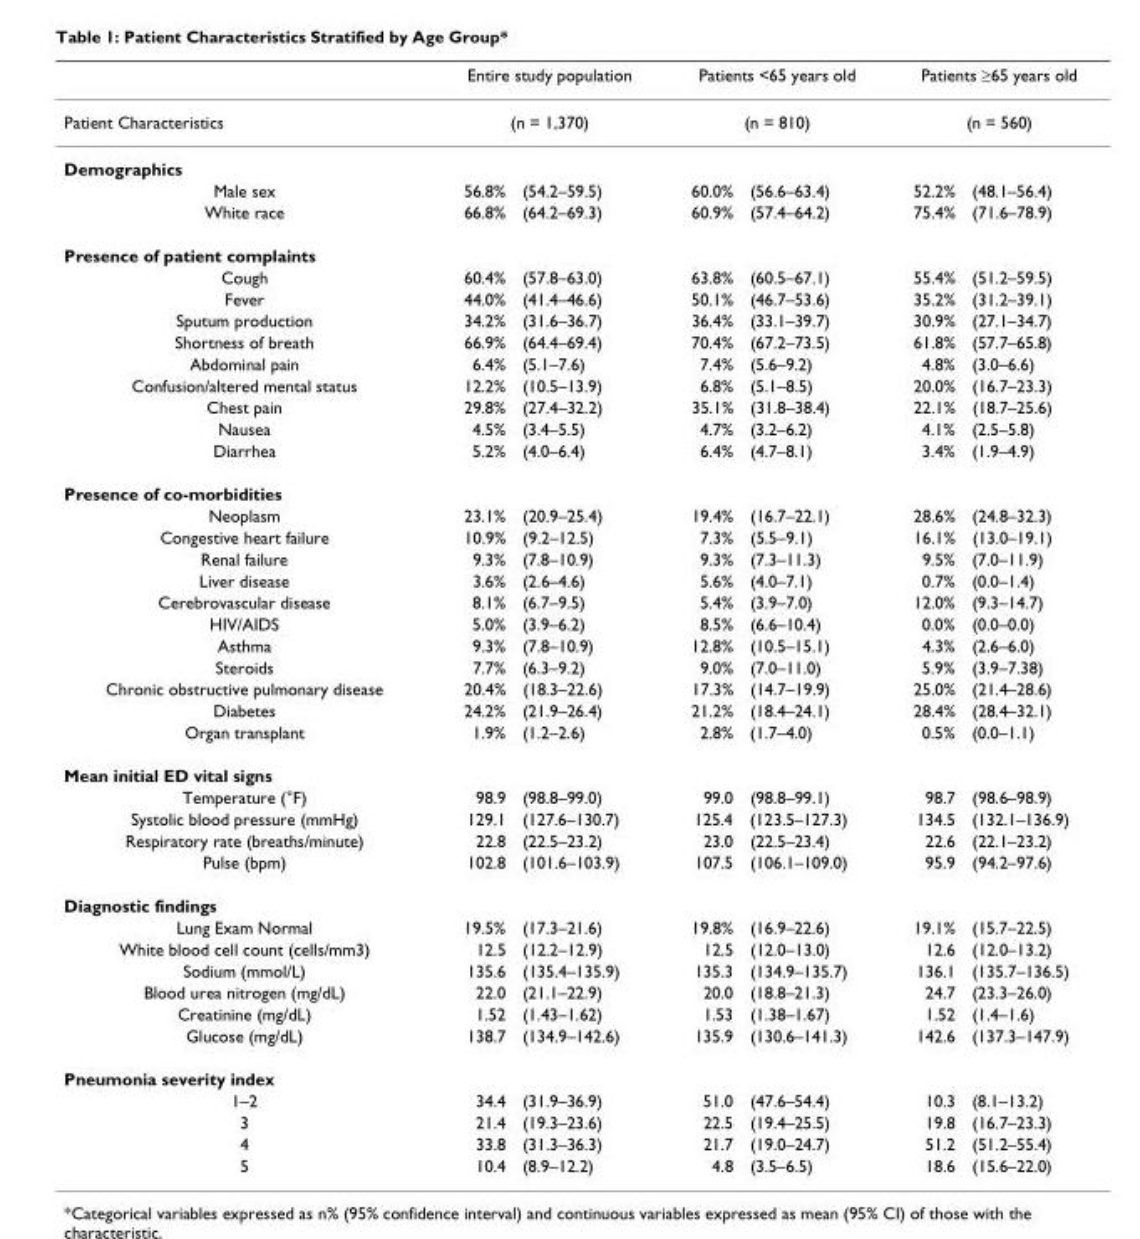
<table><thead><tr><td rowspan="3">Patient Characteristics Demographics</td><td rowspan="2" colspan="2">Entire study population (n = 1,370)</td><td rowspan="2" colspan="2">Patients &lt;65 years old (n = 810)</td><td rowspan="2" colspan="2">Patients ≥65 years old (n = 560)</td></tr><tr></tr><tr><td></td><td></td><td></td><td></td><td></td><td></td></tr></thead><tbody><tr><td>Male sex</td><td>56.8%</td><td>(54.2–59.5)</td><td>60.0%</td><td>(56.6–63.4)</td><td>52.2%</td><td>(48.1–56.4)</td></tr><tr><td>White race</td><td>66.8%</td><td>(64.2–69.3)</td><td>60.9%</td><td>(57.4–64.2)</td><td>75.4%</td><td>(71.6–78.9)</td></tr><tr><td colspan="7">Presence of patient complaints</td></tr><tr><td>Cough</td><td>60.4%</td><td>(57.8–63.0)</td><td>63.8%</td><td>(60.5–67.1)</td><td>55.4%</td><td>(51.2–59.5)</td></tr><tr><td>Fever</td><td>44.0%</td><td>(41.4–46.6)</td><td>50.1%</td><td>(46.7–53.6)</td><td>35.2%</td><td>(31.2–39.1)</td></tr><tr><td>Sputum production</td><td>34.2%</td><td>(31.6–36.7)</td><td>36.4%</td><td>(33.1–39.7)</td><td>30.9%</td><td>(27.1–34.7)</td></tr><tr><td>Shortness of breath</td><td>66.9%</td><td>(64.4–69.4)</td><td>70.4%</td><td>(67.2–73.5)</td><td>61.8%</td><td>(57.7–65.8)</td></tr><tr><td>Abdominal pain</td><td>6.4%</td><td>(5.1–7.6)</td><td>7.4%</td><td>(5.6–9.2)</td><td>4.8%</td><td>(3.0–6.6)</td></tr><tr><td>Confusion/altered mental status</td><td>12.2%</td><td>(10.5–13.9)</td><td>6.8%</td><td>(5.1–8.5)</td><td>20.0%</td><td>(16.7–23.3)</td></tr><tr><td>Chest pain</td><td>29.8%</td><td>(27.4–32.2)</td><td>35.1%</td><td>(31.8–38.4)</td><td>22.1%</td><td>(18.7–25.6)</td></tr><tr><td>Nausea</td><td>4.5%</td><td>(3.4–5.5)</td><td>4.7%</td><td>(3.2–6.2)</td><td>4.1%</td><td>(2.5–5.8)</td></tr><tr><td>Diarrhea</td><td>5.2%</td><td>(4.0–6.4)</td><td>6.4%</td><td>(4.7–8.1)</td><td>3.4%</td><td>(1.9–4.9)</td></tr><tr><td colspan="7">Presence of co-morbidities</td></tr><tr><td>Neoplasm</td><td>23.1%</td><td>(20.9–25.4)</td><td>19.4%</td><td>(16.7–22.1)</td><td>28.6%</td><td>(24.8–32.3)</td></tr><tr><td>Congestive heart failure</td><td>10.9%</td><td>(9.2–12.5)</td><td>7.3%</td><td>(5.5–9.1)</td><td>16.1%</td><td>(13.0–19.1)</td></tr><tr><td>Renal failure</td><td>9.3%</td><td>(7.8–10.9)</td><td>9.3%</td><td>(7.3–11.3)</td><td>9.5%</td><td>(7.0–11.9)</td></tr><tr><td>Liver disease</td><td>3.6%</td><td>(2.6–4.6)</td><td>5.6%</td><td>(4.0–7.1)</td><td>0.7%</td><td>(0.0–1.4)</td></tr><tr><td>Cerebrovascular disease</td><td>8.1%</td><td>(6.7–9.5)</td><td>5.4%</td><td>(3.9–7.0)</td><td>12.0%</td><td>(9.3–14.7)</td></tr><tr><td>HIV/AIDS</td><td>5.0%</td><td>(3.9–6.2)</td><td>8.5%</td><td>(6.6–10.4)</td><td>0.0%</td><td>(0.0–0.0)</td></tr><tr><td>Asthma</td><td>9.3%</td><td>(7.8–10.9)</td><td>12.8%</td><td>(10.5–15.1)</td><td>4.3%</td><td>(2.6–6.0)</td></tr><tr><td>Steroids</td><td>7.7%</td><td>(6.3–9.2)</td><td>9.0%</td><td>(7.0–11.0)</td><td>5.9%</td><td>(3.9–7.38)</td></tr><tr><td>Chronic obstructive pulmonary disease</td><td>20.4%</td><td>(18.3–22.6)</td><td>17.3%</td><td>(14.7–19.9)</td><td>25.0%</td><td>(21.4–28.6)</td></tr><tr><td>Diabetes</td><td>24.2%</td><td>(21.9–26.4)</td><td>21.2%</td><td>(18.4–24.1)</td><td>28.4%</td><td>(28.4–32.1)</td></tr><tr><td>Organ transplant</td><td>1.9%</td><td>(1.2–2.6)</td><td>2.8%</td><td>(1.7–4.0)</td><td>0.5%</td><td>(0.0–1.1)</td></tr><tr><td colspan="7">Mean initial ED vital signs</td></tr><tr><td>Temperature (°F)</td><td>98.9</td><td>(98.8–99.0)</td><td>99.0</td><td>(98.8–99.1)</td><td>98.7</td><td>(98.6–98.9)</td></tr><tr><td>Systolic blood pressure (mmHg)</td><td>129.1</td><td>(127.6–130.7)</td><td>125.4</td><td>(123.5–127.3)</td><td>134.5</td><td>(132.1–136.9)</td></tr><tr><td>Respiratory rate (breaths/minute)</td><td>22.8</td><td>(22.5–23.2)</td><td>23.0</td><td>(22.5–23.4)</td><td>22.6</td><td>(22.1–23.2)</td></tr><tr><td>Pulse (bpm)</td><td>102.8</td><td>(101.6–103.9)</td><td>107.5</td><td>(106.1–109.0)</td><td>95.9</td><td>(94.2–97.6)</td></tr><tr><td colspan="7">Diagnostic findings</td></tr><tr><td>Lung Exam Normal</td><td>19.5%</td><td>(17.3–21.6)</td><td>19.8%</td><td>(16.9–22.6)</td><td>19.1%</td><td>(15.7–22.5)</td></tr><tr><td>White blood cell count (cells/mm3)</td><td>12.5</td><td>(12.2–12.9)</td><td>12.5</td><td>(12.0–13.0)</td><td>12.6</td><td>(12.0–13.2)</td></tr><tr><td>Sodium (mmol/L)</td><td>135.6</td><td>(135.4–135.9)</td><td>135.3</td><td>(134.9–135.7)</td><td>136.1</td><td>(135.7–136.5)</td></tr><tr><td>Blood urea nitrogen (mg/dL)</td><td>22.0</td><td>(21.1–22.9)</td><td>20.0</td><td>(18.8–21.3)</td><td>24.7</td><td>(23.3–26.0)</td></tr><tr><td>Creatinine (mg/dL)</td><td>1.52</td><td>(1.43–1.62)</td><td>1.53</td><td>(1.38–1.67)</td><td>1.52</td><td>(1.4–1.6)</td></tr><tr><td>Glucose (mg/dL)</td><td>138.7</td><td>(134.9–142.6)</td><td>135.9</td><td>(130.6–141.3)</td><td>142.6</td><td>(137.3–147.9)</td></tr><tr><td colspan="7">Pneumonia severity index</td></tr><tr><td>1–2</td><td>34.4</td><td>(31.9–36.9)</td><td>51.0</td><td>(47.6–54.4)</td><td>10.3</td><td>(8.1–13.2)</td></tr><tr><td>3</td><td>21.4</td><td>(19.3–23.6)</td><td>22.5</td><td>(19.4–25.5)</td><td>19.8</td><td>(16.7–23.3)</td></tr><tr><td>4</td><td>33.8</td><td>(31.3–36.3)</td><td>21.7</td><td>(19.0–24.7)</td><td>51.2</td><td>(51.2–55.4)</td></tr><tr><td>5</td><td>10.4</td><td>(8.9–12.2)</td><td>4.8</td><td>(3.5–6.5)</td><td>18.6</td><td>(15.6–22.0)</td></tr></tbody></table>